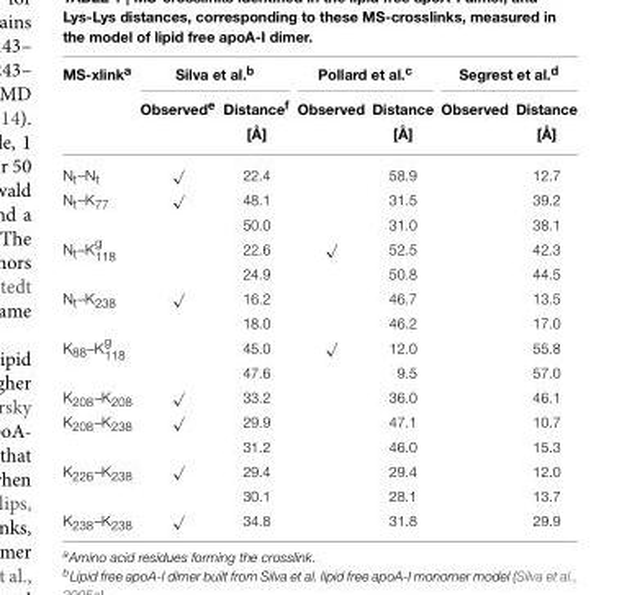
<table><thead><tr><td rowspan="2">MS-xlink<sup>a</sup></td><td colspan="2">Silva et al.<sup>b</sup></td><td colspan="2">Pollard et al.<sup>c</sup></td><td colspan="2">Segrest et al.<sup>d</sup></td></tr><tr><td>Observed<sup>e</sup></td><td>Distance<sup>f</sup> [Å]</td><td>Observed</td><td>Distance [Å]</td><td>Observed</td><td>Distance [Å]</td></tr></thead><tbody><tr><td>N<sub>t</sub>–N<sub>t</sub></td><td>√</td><td>22.4</td><td></td><td>58.9</td><td></td><td>12.7</td></tr><tr><td rowspan="2">N<sub>t</sub>–K<sub>77</sub></td><td>√</td><td>48.1</td><td></td><td>31.5</td><td></td><td>39.2</td></tr><tr><td></td><td>50.0</td><td></td><td>31.0</td><td></td><td>38.1</td></tr><tr><td rowspan="2">N<sub>t</sub>–K<sup>g</sup> <sub>118</sub></td><td></td><td>22.6</td><td>√</td><td>52.5</td><td></td><td>42.3</td></tr><tr><td></td><td>24.9</td><td></td><td>50.8</td><td></td><td>44.5</td></tr><tr><td rowspan="2">N<sub>t</sub>–K<sub>238</sub></td><td>√</td><td>16.2</td><td></td><td>46.7</td><td></td><td>13.5</td></tr><tr><td></td><td>18.0</td><td></td><td>46.2</td><td></td><td>17.0</td></tr><tr><td rowspan="2">K<sub>88</sub>–K<sup>g</sup> <sub>118</sub></td><td></td><td>45.0</td><td>√</td><td>12.0</td><td></td><td>55.8</td></tr><tr><td></td><td>47.6</td><td></td><td>9.5</td><td></td><td>57.0</td></tr><tr><td>K<sub>208</sub>–K<sub>208</sub></td><td>√</td><td>33.2</td><td></td><td>36.0</td><td></td><td>46.1</td></tr><tr><td rowspan="2">K<sub>208</sub>–K<sub>238</sub></td><td>√</td><td>29.9</td><td></td><td>47.1</td><td></td><td>10.7</td></tr><tr><td></td><td>31.2</td><td></td><td>46.0</td><td></td><td>15.3</td></tr><tr><td rowspan="2">K<sub>226</sub>–K<sub>238</sub></td><td>√</td><td>29.4</td><td></td><td>29.4</td><td></td><td>12.0</td></tr><tr><td></td><td>30.1</td><td></td><td>28.1</td><td></td><td>13.7</td></tr><tr><td>K<sub>238</sub>–K<sub>238</sub></td><td>√</td><td>34.8</td><td></td><td>31.8</td><td></td><td>29.9</td></tr></tbody></table>